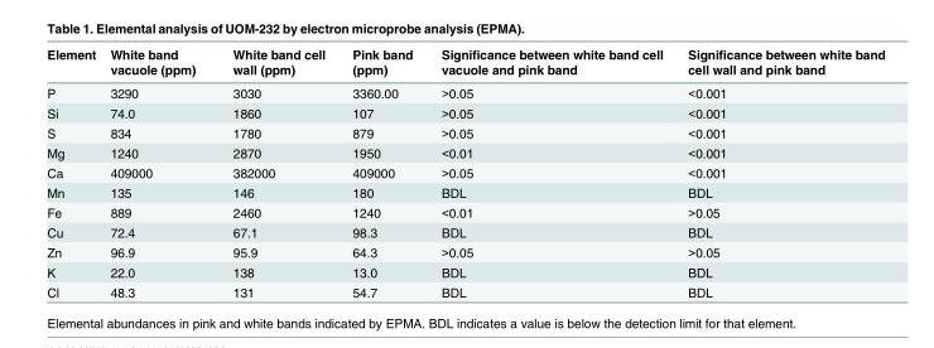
<table><thead><tr><td>Element</td><td>White band vacuole (ppm)</td><td>White band cell wall (ppm)</td><td>Pink band (ppm)</td><td>Significance between white band cell vacuole and pink band</td><td>Significance between white band cell wall and pink band</td></tr></thead><tbody><tr><td>P</td><td>3290</td><td>3030</td><td>3360.00</td><td>&gt;0.05</td><td>&lt;0.001</td></tr><tr><td>Si</td><td>74.0</td><td>1860</td><td>107</td><td>&gt;0.05</td><td>&lt;0.001</td></tr><tr><td>S</td><td>834</td><td>1780</td><td>879</td><td>&gt;0.05</td><td>&lt;0.001</td></tr><tr><td>Mg</td><td>1240</td><td>2870</td><td>1950</td><td>&lt;0.01</td><td>&lt;0.001</td></tr><tr><td>Ca</td><td>409000</td><td>382000</td><td>409000</td><td>&gt;0.05</td><td>&lt;0.001</td></tr><tr><td>Mn</td><td>135</td><td>146</td><td>180</td><td>BDL</td><td>BDL</td></tr><tr><td>Fe</td><td>889</td><td>2460</td><td>1240</td><td>&lt;0.01</td><td>&gt;0.05</td></tr><tr><td>Cu</td><td>72.4</td><td>67.1</td><td>98.3</td><td>BDL</td><td>BDL</td></tr><tr><td>Zn</td><td>96.9</td><td>95.9</td><td>64.3</td><td>&gt;0.05</td><td>&gt;0.05</td></tr><tr><td>K</td><td>22.0</td><td>138</td><td>13.0</td><td>BDL</td><td>BDL</td></tr><tr><td>Cl</td><td>48.3</td><td>131</td><td>54.7</td><td>BDL</td><td>BDL</td></tr></tbody></table>